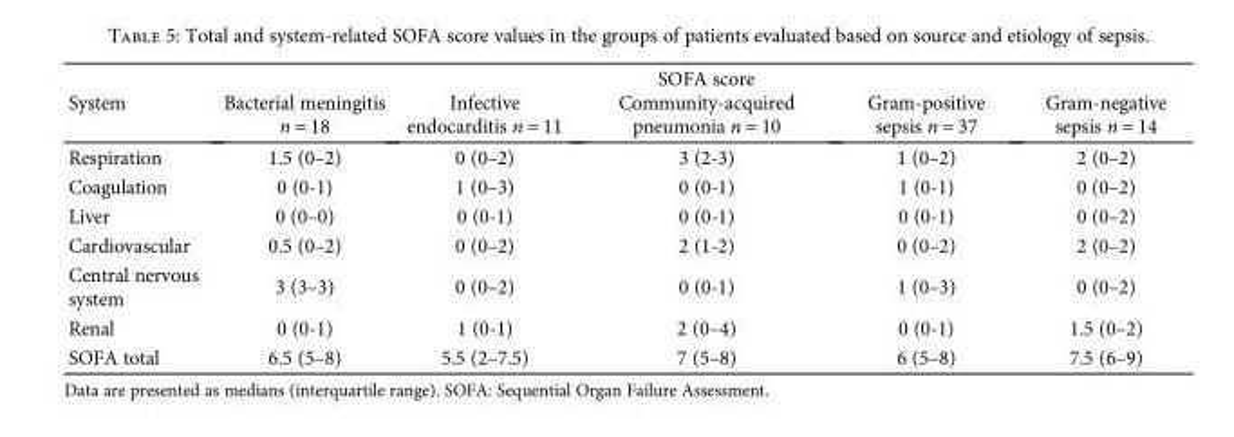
<table><thead><tr><td rowspan="2">System</td><td colspan="5">SOFA score</td></tr><tr><td>Bacterial meningitis n = 18</td><td>Infective endocarditis n = 11</td><td>Community-acquired pneumonia n = 10</td><td>Gram-positive sepsis n = 37</td><td>Gram-negative sepsis n = 14</td></tr></thead><tbody><tr><td>Respiration</td><td>1.5 (0–2)</td><td>0 (0–2)</td><td>3 (2-3)</td><td>1 (0–2)</td><td>2 (0–2)</td></tr><tr><td>Coagulation</td><td>0 (0-1)</td><td>1 (0–3)</td><td>0 (0-1)</td><td>1 (0-1)</td><td>0 (0–2)</td></tr><tr><td>Liver</td><td>0 (0–0)</td><td>0 (0-1)</td><td>0 (0-1)</td><td>0 (0-1)</td><td>0 (0–2)</td></tr><tr><td>Cardiovascular</td><td>0.5 (0–2)</td><td>0 (0–2)</td><td>2 (1-2)</td><td>0 (0–2)</td><td>2 (0–2)</td></tr><tr><td>Central nervous system</td><td>3 (3–3)</td><td>0 (0–2)</td><td>0 (0-1)</td><td>1 (0–3)</td><td>0 (0–2)</td></tr><tr><td>Renal</td><td>0 (0-1)</td><td>1 (0-1)</td><td>2 (0–4)</td><td>0 (0-1)</td><td>1.5 (0–2)</td></tr><tr><td>SOFA total</td><td>6.5 (5–8)</td><td>5.5 (2–7.5)</td><td>7 (5–8)</td><td>6 (5–8)</td><td>7.5 (6–9)</td></tr></tbody></table>